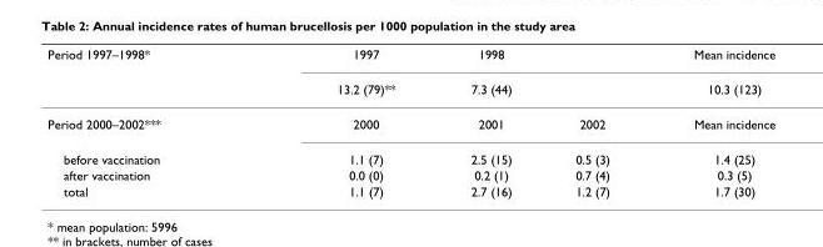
<table><thead><tr><td rowspan="2">Period 1997–1998*</td><td rowspan="2">1997 13.2 (79)**</td><td rowspan="2">1998 7.3 (44)</td><td rowspan="2"></td><td rowspan="2">Mean incidence 10.3 (123)</td></tr><tr></tr></thead><tbody><tr><td>Period 2000–2002***</td><td>2000</td><td>2001</td><td>2002</td><td>Mean incidence</td></tr><tr><td>before vaccination</td><td>1.1 (7)</td><td>2.5 (15)</td><td>0.5 (3)</td><td>1.4 (25)</td></tr><tr><td>after vaccination</td><td>0.0 (0)</td><td>0.2 (1)</td><td>0.7 (4)</td><td>0.3 (5)</td></tr><tr><td>total</td><td>1.1 (7)</td><td>2.7 (16)</td><td>1.2 (7)</td><td>1.7 (30)</td></tr></tbody></table>